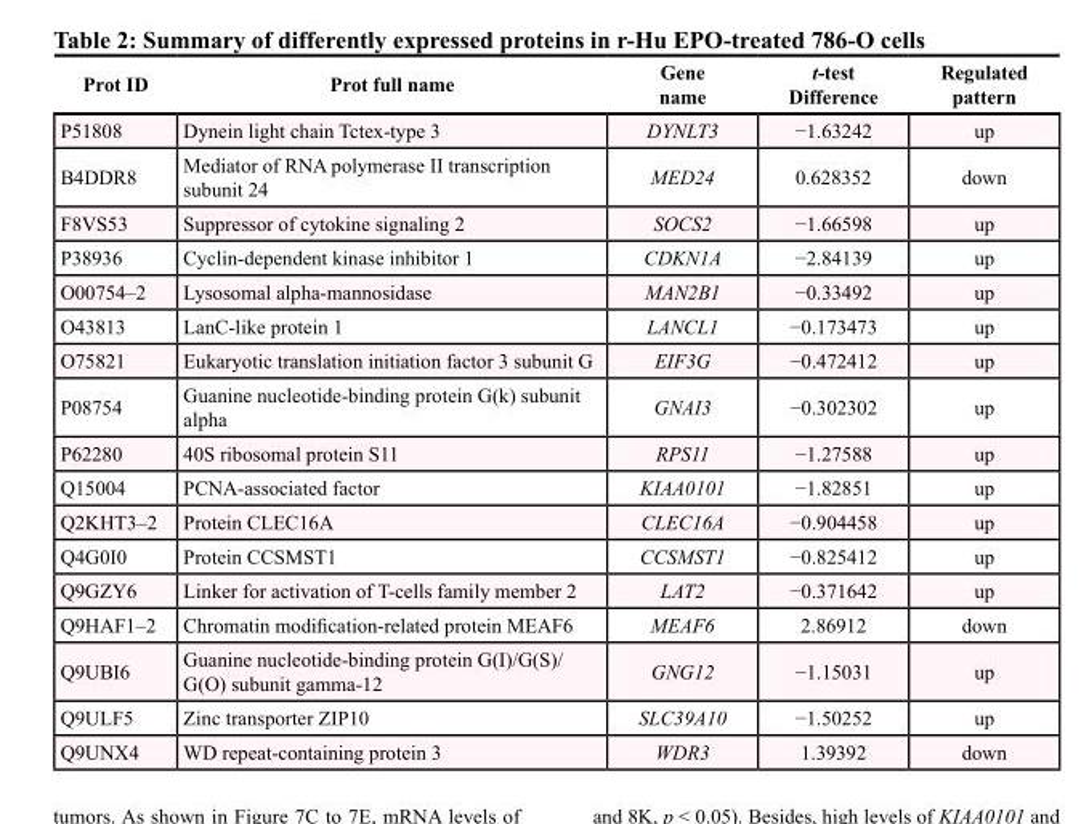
<table><thead><tr><td>Prot ID</td><td>Prot full name</td><td>Gene name</td><td>t-test Difference</td><td>Regulated pattern</td></tr></thead><tbody><tr><td>P51808</td><td>Dynein light chain Tctex-type 3</td><td>DYNLT3</td><td>−1.63242</td><td>up</td></tr><tr><td>B4DDR8</td><td>Mediator of RNA polymerase II transcription subunit 24</td><td>MED24</td><td>0.628352</td><td>down</td></tr><tr><td>F8VS53</td><td>Suppressor of cytokine signaling 2</td><td>SOCS2</td><td>−1.66598</td><td>up</td></tr><tr><td>P38936</td><td>Cyclin-dependent kinase inhibitor 1</td><td>CDKN1A</td><td>−2.84139</td><td>up</td></tr><tr><td>O00754–2</td><td>Lysosomal alpha-mannosidase</td><td>MAN2B1</td><td>−0.33492</td><td>up</td></tr><tr><td>O43813</td><td>LanC-like protein 1</td><td>LANCL1</td><td>−0.173473</td><td>up</td></tr><tr><td>O75821</td><td>Eukaryotic translation initiation factor 3 subunit G</td><td>EIF3G</td><td>−0.472412</td><td>up</td></tr><tr><td>P08754</td><td>Guanine nucleotide-binding protein G(k) subunit alpha</td><td>GNAI3</td><td>−0.302302</td><td>up</td></tr><tr><td>P62280</td><td>40S ribosomal protein S11</td><td>RPS11</td><td>−1.27588</td><td>up</td></tr><tr><td>Q15004</td><td>PCNA-associated factor</td><td>KIAA0101</td><td>−1.82851</td><td>up</td></tr><tr><td>Q2KHT3–2</td><td>Protein CLEC16A</td><td>CLEC16A</td><td>−0.904458</td><td>up</td></tr><tr><td>Q4G0I0</td><td>Protein CCSMST1</td><td>CCSMST1</td><td>−0.825412</td><td>up</td></tr><tr><td>Q9GZY6</td><td>Linker for activation of T-cells family member 2</td><td>LAT2</td><td>−0.371642</td><td>up</td></tr><tr><td>Q9HAF1–2</td><td>Chromatin modification-related protein MEAF6</td><td>MEAF6</td><td>2.86912</td><td>down</td></tr><tr><td>Q9UBI6</td><td>Guanine nucleotide-binding protein G(I)/G(S)/ G(O) subunit gamma-12</td><td>GNG12</td><td>−1.15031</td><td>up</td></tr><tr><td>Q9ULF5</td><td>Zinc transporter ZIP10</td><td>SLC39A10</td><td>−1.50252</td><td>up</td></tr><tr><td>Q9UNX4</td><td>WD repeat-containing protein 3</td><td>WDR3</td><td>1.39392</td><td>down</td></tr></tbody></table>